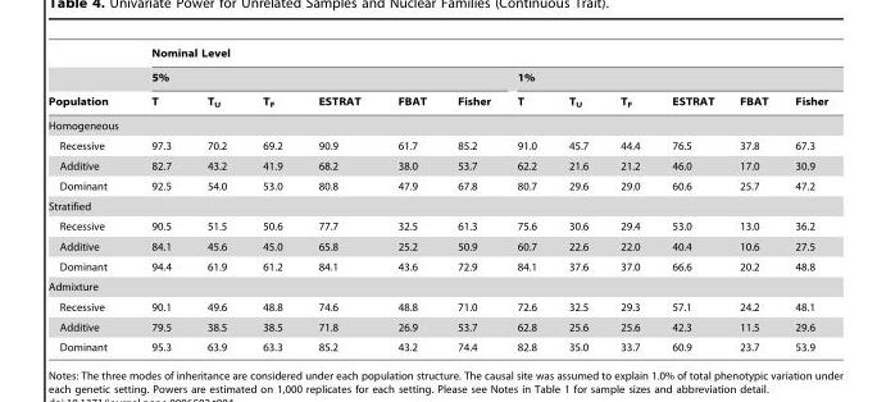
<table><thead><tr><td rowspan="3">Population</td><td colspan="12">Nominal Level</td></tr><tr><td colspan="6">5%</td><td colspan="6">1%</td></tr><tr><td>T</td><td>T<sub>U</sub></td><td>T<sub>F</sub></td><td>ESTRAT</td><td>FBAT</td><td>Fisher</td><td>T</td><td>T<sub>U</sub></td><td>T<sub>F</sub></td><td>ESTRAT</td><td>FBAT</td><td>Fisher</td></tr></thead><tbody><tr><td colspan="13">Homogeneous</td></tr><tr><td>Recessive</td><td>97.3</td><td>70.2</td><td>69.2</td><td>90.9</td><td>61.7</td><td>85.2</td><td>91.0</td><td>45.7</td><td>44.4</td><td>76.5</td><td>37.8</td><td>67.3</td></tr><tr><td>Additive</td><td>82.7</td><td>43.2</td><td>41.9</td><td>68.2</td><td>38.0</td><td>53.7</td><td>62.2</td><td>21.6</td><td>21.2</td><td>46.0</td><td>17.0</td><td>30.9</td></tr><tr><td>Dominant</td><td>92.5</td><td>54.0</td><td>53.0</td><td>80.8</td><td>47.9</td><td>67.8</td><td>80.7</td><td>29.6</td><td>29.0</td><td>60.6</td><td>25.7</td><td>47.2</td></tr><tr><td colspan="13">Stratified</td></tr><tr><td>Recessive</td><td>90.5</td><td>51.5</td><td>50.6</td><td>77.7</td><td>32.5</td><td>61.3</td><td>75.6</td><td>30.6</td><td>29.4</td><td>53.0</td><td>13.0</td><td>36.2</td></tr><tr><td>Additive</td><td>84.1</td><td>45.6</td><td>45.0</td><td>65.8</td><td>25.2</td><td>50.9</td><td>60.7</td><td>22.6</td><td>22.0</td><td>40.4</td><td>10.6</td><td>27.5</td></tr><tr><td>Dominant</td><td>94.4</td><td>61.9</td><td>61.2</td><td>84.1</td><td>43.6</td><td>72.9</td><td>84.1</td><td>37.6</td><td>37.0</td><td>66.6</td><td>20.2</td><td>48.8</td></tr><tr><td colspan="13">Admixture</td></tr><tr><td>Recessive</td><td>90.1</td><td>49.6</td><td>48.8</td><td>74.6</td><td>48.8</td><td>71.0</td><td>72.6</td><td>32.5</td><td>29.3</td><td>57.1</td><td>24.2</td><td>48.1</td></tr><tr><td>Additive</td><td>79.5</td><td>38.5</td><td>38.5</td><td>71.8</td><td>26.9</td><td>53.7</td><td>62.8</td><td>25.6</td><td>25.6</td><td>42.3</td><td>11.5</td><td>29.6</td></tr><tr><td>Dominant</td><td>95.3</td><td>63.9</td><td>63.3</td><td>85.2</td><td>43.2</td><td>74.4</td><td>82.8</td><td>35.0</td><td>33.7</td><td>60.9</td><td>23.7</td><td>53.9</td></tr></tbody></table>